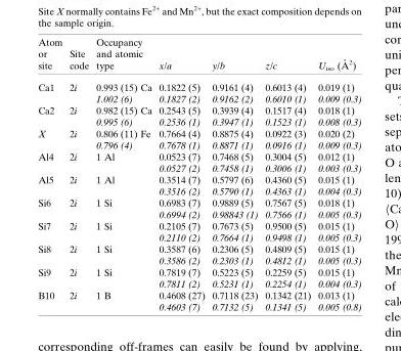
<table><thead><tr><td>Atom or site</td><td>Site code</td><td>Occupancy and atomic type</td><td>x/a</td><td>y/b</td><td>z/c</td><td>Uiso (A˚ 2)</td></tr></thead><tbody><tr><td rowspan="2">Ca1</td><td>2i</td><td>0.993 (15) Ca</td><td>0.1822 (5)</td><td>0.9161 (4)</td><td>0.6013 (4)</td><td>0.019 (1)</td></tr><tr><td></td><td>1.002 (6)</td><td>0.1827 (2)</td><td>0.9162 (2)</td><td>0.6010 (1)</td><td>0.009 (0.3)</td></tr><tr><td rowspan="2">Ca2</td><td>2i</td><td>0.982 (15) Ca</td><td>0.2543 (5)</td><td>0.3939 (4)</td><td>0.1517 (4)</td><td>0.018 (1)</td></tr><tr><td></td><td>0.995 (6)</td><td>0.2536 (1)</td><td>0.3947 (1)</td><td>0.1523 (1)</td><td>0.008 (0.3)</td></tr><tr><td rowspan="2">X</td><td>2i</td><td>0.806 (11) Fe</td><td>0.7664 (4)</td><td>0.8875 (4)</td><td>0.0922 (3)</td><td>0.020 (2)</td></tr><tr><td></td><td>0.796 (4)</td><td>0.7678 (1)</td><td>0.8871 (1)</td><td>0.0916 (1)</td><td>0.009 (0.3)</td></tr><tr><td rowspan="2">Al4</td><td>2i</td><td>1 Al</td><td>0.0523 (7)</td><td>0.7468 (5)</td><td>0.3004 (5)</td><td>0.012 (1)</td></tr><tr><td></td><td></td><td>0.0527 (2)</td><td>0.7458 (1)</td><td>0.3006 (1)</td><td>0.003 (0.3)</td></tr><tr><td rowspan="2">Al5</td><td>2i</td><td>1 Al</td><td>0.3514 (7)</td><td>0.5797 (6)</td><td>0.4360 (5)</td><td>0.015 (1)</td></tr><tr><td></td><td></td><td>0.3516 (2)</td><td>0.5790 (1)</td><td>0.4363 (1)</td><td>0.004 (0.3)</td></tr><tr><td rowspan="2">Si6</td><td>2i</td><td>1 Si</td><td>0.6983 (7)</td><td>0.9889 (5)</td><td>0.7567 (5)</td><td>0.018 (1)</td></tr><tr><td></td><td></td><td>0.6994 (2)</td><td>0.98843 (1)</td><td>0.7566 (1)</td><td>0.005 (0.3)</td></tr><tr><td rowspan="2">Si7</td><td>2i</td><td>1 Si</td><td>0.2105 (7)</td><td>0.7673 (5)</td><td>0.9500 (5)</td><td>0.015 (1)</td></tr><tr><td></td><td></td><td>0.2110 (2)</td><td>0.7664 (1)</td><td>0.9498 (1)</td><td>0.005 (0.3)</td></tr><tr><td rowspan="2">Si8</td><td>2i</td><td>1 Si</td><td>0.3587 (6)</td><td>0.2306 (5)</td><td>0.4809 (5)</td><td>0.015 (1)</td></tr><tr><td></td><td></td><td>0.3586 (2)</td><td>0.2303 (1)</td><td>0.4812 (1)</td><td>0.005 (0.3)</td></tr><tr><td rowspan="2">Si9</td><td>2i</td><td>1 Si</td><td>0.7819 (7)</td><td>0.5223 (5)</td><td>0.2259 (5)</td><td>0.015 (1)</td></tr><tr><td></td><td></td><td>0.7811 (2)</td><td>0.5231 (1)</td><td>0.2254 (1)</td><td>0.004 (0.3)</td></tr><tr><td rowspan="2">B10</td><td>2i</td><td>1 B</td><td>0.4608 (27)</td><td>0.7118 (23)</td><td>0.1342 (21)</td><td>0.013 (1)</td></tr><tr><td></td><td></td><td>0.4603 (7)</td><td>0.7132 (5)</td><td>0.1341 (5)</td><td>0.005 (0.8)</td></tr></tbody></table>